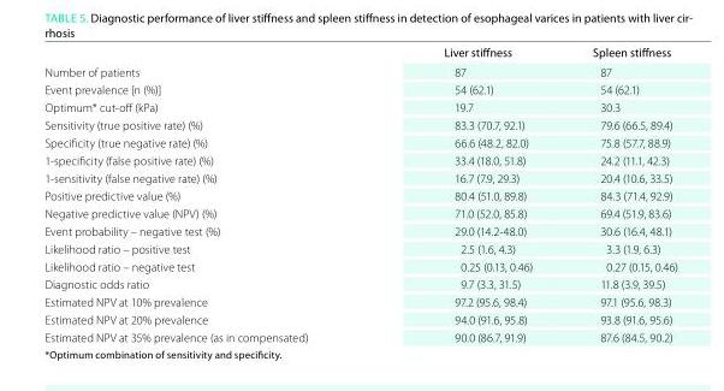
<table><thead><tr><td></td><td>Liver stiffness</td><td>Spleen stiffness</td></tr></thead><tbody><tr><td>Number of patients</td><td>87</td><td>87</td></tr><tr><td>Event prevalence [n (%)]</td><td>54 (62.1)</td><td>54 (62.1)</td></tr><tr><td>Optimum* cut-off (kPa)</td><td>19.7</td><td>30.3</td></tr><tr><td>Sensitivity (true positive rate) (%)</td><td>83.3 (70.7, 92.1)</td><td>79.6 (66.5, 89.4)</td></tr><tr><td>Specificity (true negative rate) (%)</td><td>66.6 (48.2, 82.0)</td><td>75.8 (57.7, 88.9)</td></tr><tr><td>1-specificity (false positive rate) (%)</td><td>33.4 (18.0, 51.8)</td><td>24.2 (11.1, 42.3)</td></tr><tr><td>1-sensitivity (false negative rate) (%)</td><td>16.7 (7.9, 29.3)</td><td>20.4 (10.6, 33.5)</td></tr><tr><td>Positive predictive value (%)</td><td>80.4 (51.0, 89.8)</td><td>84.3 (71.4, 92.9)</td></tr><tr><td>Negative predictive value (NPV) (%)</td><td>71.0 (52.0, 85.8)</td><td>69.4 (51.9, 83.6)</td></tr><tr><td>Event probability – negative test (%)</td><td>29.0 (14.2-48.0)</td><td>30.6 (16.4, 48.1)</td></tr><tr><td>Likelihood ratio – positive test</td><td>2.5 (1.6, 4.3)</td><td>3.3 (1.9, 6.3)</td></tr><tr><td>Likelihood ratio – negative test</td><td>0.25 (0.13, 0.46)</td><td>0.27 (0.15, 0.46)</td></tr><tr><td>Diagnostic odds ratio</td><td>9.7 (3.3, 31.5)</td><td>11.8 (3.9, 39.5)</td></tr><tr><td>Estimated NPV at 10% prevalence</td><td>97.2 (95.6, 98.4)</td><td>97.1 (95.6, 98.3)</td></tr><tr><td>Estimated NPV at 20% prevalence</td><td>94.0 (91.6, 95.8)</td><td>93.8 (91.6, 95.6)</td></tr><tr><td>Estimated NPV at 35% prevalence (as in compensated)</td><td>90.0 (86.7, 91.9)</td><td>87.6 (84.5, 90.2)</td></tr></tbody></table>